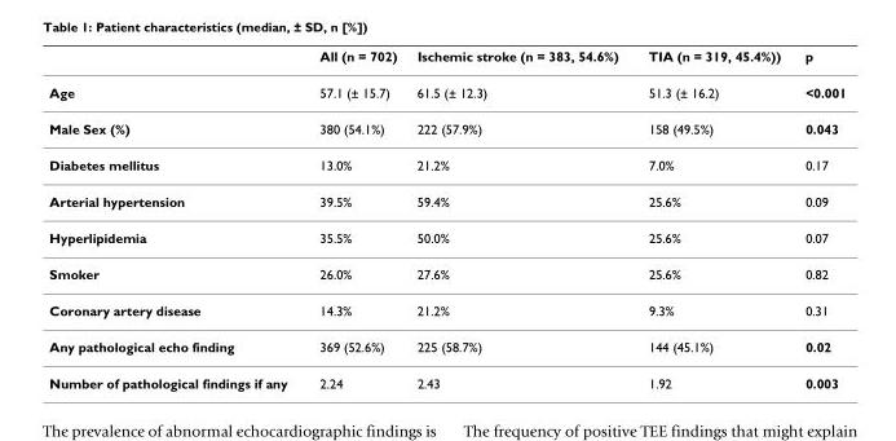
<table><thead><tr><td></td><td>All (n = 702)</td><td>Ischemic stroke (n = 383, 54.6%)</td><td>TIA (n = 319, 45.4%))</td><td>p</td></tr></thead><tbody><tr><td>Age</td><td>57.1 (± 15.7)</td><td>61.5 (± 12.3)</td><td>51.3 (± 16.2)</td><td>&lt;0.001</td></tr><tr><td>Male Sex (%)</td><td>380 (54.1%)</td><td>222 (57.9%)</td><td>158 (49.5%)</td><td>0.043</td></tr><tr><td>Diabetes mellitus</td><td>13.0%</td><td>21.2%</td><td>7.0%</td><td>0.17</td></tr><tr><td>Arterial hypertension</td><td>39.5%</td><td>59.4%</td><td>25.6%</td><td>0.09</td></tr><tr><td>Hyperlipidemia</td><td>35.5%</td><td>50.0%</td><td>25.6%</td><td>0.07</td></tr><tr><td>Smoker</td><td>26.0%</td><td>27.6%</td><td>25.6%</td><td>0.82</td></tr><tr><td>Coronary artery disease</td><td>14.3%</td><td>21.2%</td><td>9.3%</td><td>0.31</td></tr><tr><td>Any pathological echo finding</td><td>369 (52.6%)</td><td>225 (58.7%)</td><td>144 (45.1%)</td><td>0.02</td></tr><tr><td>Number of pathological findings if any</td><td>2.24</td><td>2.43</td><td>1.92</td><td>0.003</td></tr></tbody></table>